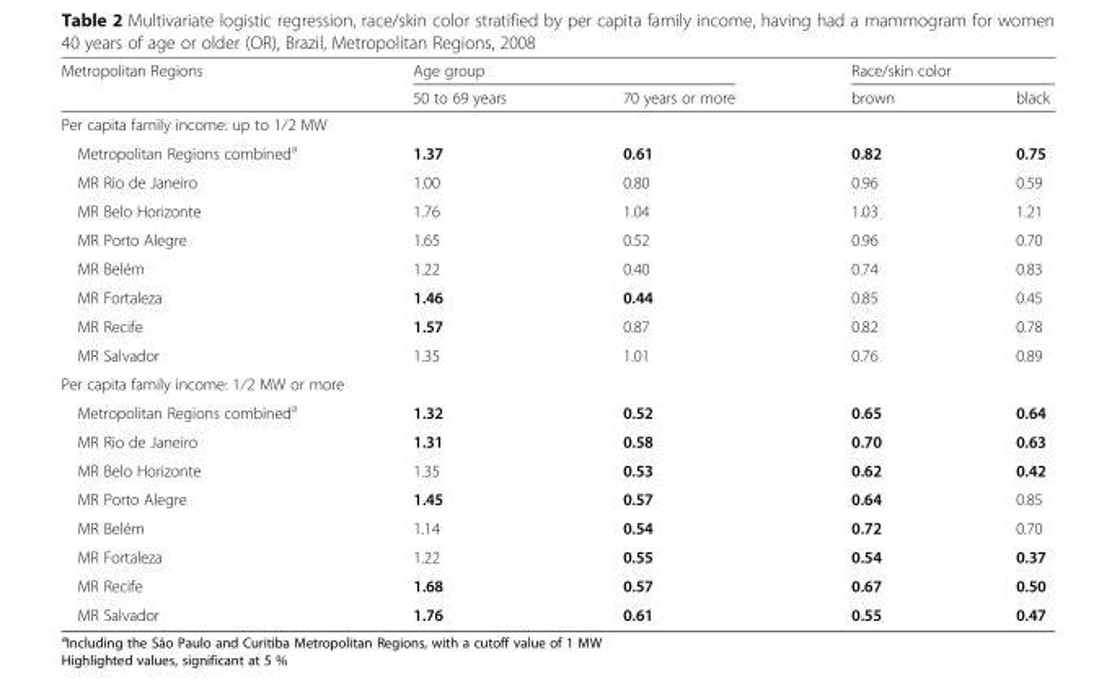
<table><thead><tr><td rowspan="2">Metropolitan Regions</td><td colspan="2">Age group</td><td colspan="2">Race/skin color</td></tr><tr><td>50 to 69 years</td><td>70 years or more</td><td>brown</td><td>black</td></tr></thead><tbody><tr><td colspan="5">Per capita family income: up to 1⁄2 MW</td></tr><tr><td>Metropolitan Regions combined<sup>a</sup></td><td>1.37</td><td>0.61</td><td>0.82</td><td>0.75</td></tr><tr><td>MR Rio de Janeiro</td><td>1.00</td><td>0.80</td><td>0.96</td><td>0.59</td></tr><tr><td>MR Belo Horizonte</td><td>1.76</td><td>1.04</td><td>1.03</td><td>1.21</td></tr><tr><td>MR Porto Alegre</td><td>1.65</td><td>0.52</td><td>0.96</td><td>0.70</td></tr><tr><td>MR Belém</td><td>1.22</td><td>0.40</td><td>0.74</td><td>0.83</td></tr><tr><td>MR Fortaleza</td><td>1.46</td><td>0.44</td><td>0.85</td><td>0.45</td></tr><tr><td>MR Recife</td><td>1.57</td><td>0.87</td><td>0.82</td><td>0.78</td></tr><tr><td>MR Salvador</td><td>1.35</td><td>1.01</td><td>0.76</td><td>0.89</td></tr><tr><td colspan="5">Per capita family income: 1⁄2 MW or more</td></tr><tr><td>Metropolitan Regions combined<sup>a</sup></td><td>1.32</td><td>0.52</td><td>0.65</td><td>0.64</td></tr><tr><td>MR Rio de Janeiro</td><td>1.31</td><td>0.58</td><td>0.70</td><td>0.63</td></tr><tr><td>MR Belo Horizonte</td><td>1.35</td><td>0.53</td><td>0.62</td><td>0.42</td></tr><tr><td>MR Porto Alegre</td><td>1.45</td><td>0.57</td><td>0.64</td><td>0.85</td></tr><tr><td>MR Belém</td><td>1.14</td><td>0.54</td><td>0.72</td><td>0.70</td></tr><tr><td>MR Fortaleza</td><td>1.22</td><td>0.55</td><td>0.54</td><td>0.37</td></tr><tr><td>MR Recife</td><td>1.68</td><td>0.57</td><td>0.67</td><td>0.50</td></tr><tr><td>MR Salvador</td><td>1.76</td><td>0.61</td><td>0.55</td><td>0.47</td></tr></tbody></table>